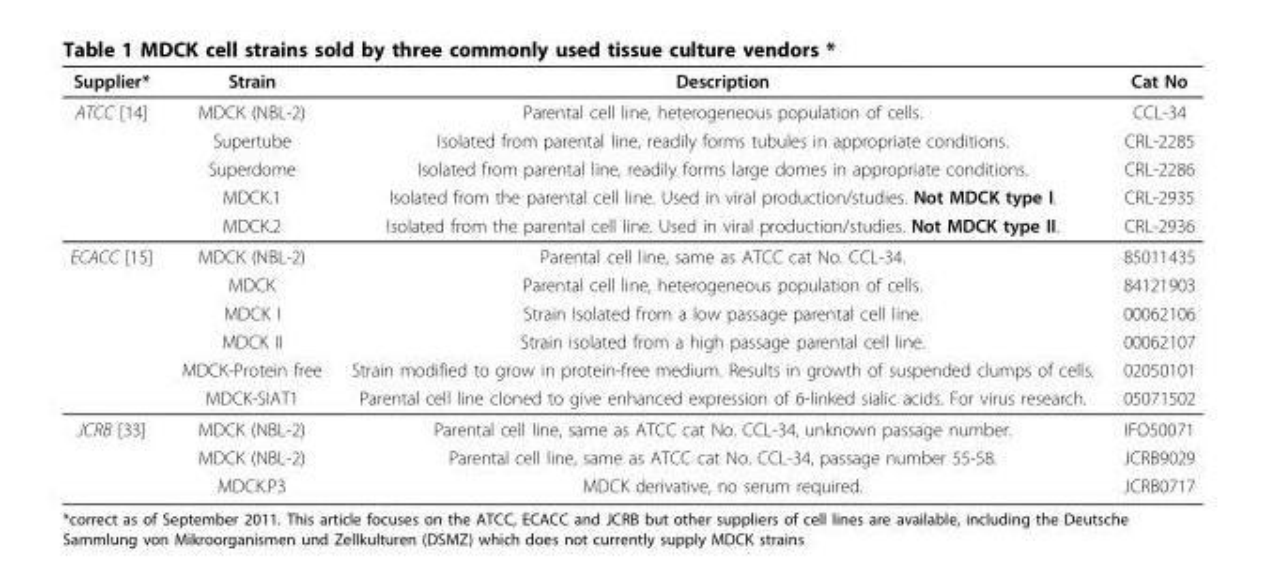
<table><thead><tr><td>Supplier*</td><td>Strain</td><td>Description</td><td>Cat No</td></tr></thead><tbody><tr><td rowspan="5">ATCC [14]</td><td>MDCK (NBL-2)</td><td>Parental cell line, heterogeneous population of cells.</td><td>CCL-34</td></tr><tr><td>Supertube</td><td>Isolated from parental line, readily forms tubules in appropriate conditions.</td><td>CRL-2285</td></tr><tr><td>Superdome</td><td>Isolated from parental line, readily forms large domes in appropriate conditions.</td><td>CRL-2286</td></tr><tr><td>MDCK.1</td><td>Isolated from the parental cell line. Used in viral production/studies. Not MDCK type I.</td><td>CRL-2935</td></tr><tr><td>MDCK.2</td><td>Isolated from the parental cell line. Used in viral production/studies. Not MDCK type II.</td><td>CRL-2936</td></tr><tr><td rowspan="6">ECACC [15]</td><td>MDCK (NBL-2)</td><td>Parental cell line, same as ATCC cat No. CCL-34.</td><td>85011435</td></tr><tr><td>MDCK</td><td>Parental cell line, heterogeneous population of cells.</td><td>84121903</td></tr><tr><td>MDCK I</td><td>Strain Isolated from a low passage parental cell line.</td><td>00062106</td></tr><tr><td>MDCK II</td><td>Strain isolated from a high passage parental cell line.</td><td>00062107</td></tr><tr><td>MDCK-Protein free</td><td>Strain modified to grow in protein-free medium. Results in growth of suspended clumps of cells.</td><td>02050101</td></tr><tr><td>MDCK-SIAT1</td><td>Parental cell line cloned to give enhanced expression of 6-linked sialic acids. For virus research.</td><td>05071502</td></tr><tr><td rowspan="3">JCRB [33]</td><td>MDCK (NBL-2)</td><td>Parental cell line, same as ATCC cat No. CCL-34, unknown passage number.</td><td>IFO50071</td></tr><tr><td>MDCK (NBL-2)</td><td>Parental cell line, same as ATCC cat No. CCL-34, passage number 55-58.</td><td>JCRB9029</td></tr><tr><td>MDCK.P3</td><td>MDCK derivative, no serum required.</td><td>JCRB0717</td></tr></tbody></table>